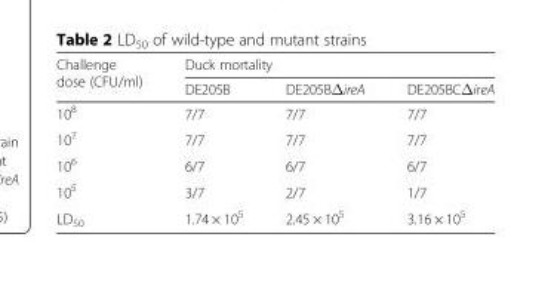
<table><thead><tr><td rowspan="2">Challenge dose (CFU/ml)</td><td colspan="3">Duck mortality</td></tr><tr><td>DE205B</td><td>DE205BΔireA</td><td>DE205BCΔireA</td></tr></thead><tbody><tr><td>10<sup>8</sup></td><td>7/7</td><td>7/7</td><td>7/7</td></tr><tr><td>10<sup>7</sup></td><td>7/7</td><td>7/7</td><td>7/7</td></tr><tr><td>10<sup>6</sup></td><td>6/7</td><td>6/7</td><td>6/7</td></tr><tr><td>10<sup>5</sup></td><td>3/7</td><td>2/7</td><td>1/7</td></tr><tr><td>LD<sub>50</sub></td><td>1.74 × 10<sup>5</sup></td><td>2.45 × 10<sup>5</sup></td><td>3.16 × 10<sup>5</sup></td></tr></tbody></table>